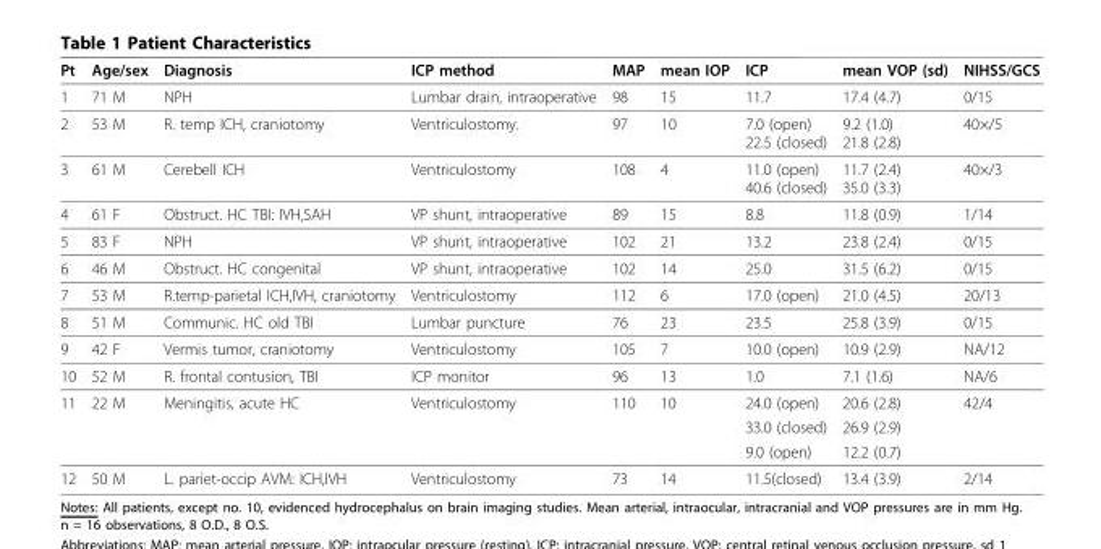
<table><thead><tr><td>Pt</td><td>Age/sex</td><td>Diagnosis</td><td>ICP method</td><td>MAP</td><td>mean IOP</td><td>ICP</td><td>mean VOP (sd)</td><td>NIHSS/GCS</td></tr></thead><tbody><tr><td>1</td><td>71 M</td><td>NPH</td><td>Lumbar drain, intraoperative</td><td>98</td><td>15</td><td>11.7</td><td>17.4 (4.7)</td><td>0/15</td></tr><tr><td>2</td><td>53 M</td><td>R. temp ICH, craniotomy</td><td>Ventriculostomy.</td><td>97</td><td>10</td><td>7.0 (open) 22.5 (closed)</td><td>9.2 (1.0) 21.8 (2.8)</td><td>40×/5</td></tr><tr><td>3</td><td>61 M</td><td>Cerebell ICH</td><td>Ventriculostomy</td><td>108</td><td>4</td><td>11.0 (open) 40.6 (closed)</td><td>11.7 (2.4) 35.0 (3.3)</td><td>40×/3</td></tr><tr><td>4</td><td>61 F</td><td>Obstruct. HC TBI: IVH,SAH</td><td>VP shunt, intraoperative</td><td>89</td><td>15</td><td>8.8</td><td>11.8 (0.9)</td><td>1/14</td></tr><tr><td>5</td><td>83 F</td><td>NPH</td><td>VP shunt, intraoperative</td><td>102</td><td>21</td><td>13.2</td><td>23.8 (2.4)</td><td>0/15</td></tr><tr><td>6</td><td>46 M</td><td>Obstruct. HC congenital</td><td>VP shunt, intraoperative</td><td>102</td><td>14</td><td>25.0</td><td>31.5 (6.2)</td><td>0/15</td></tr><tr><td>7</td><td>53 M</td><td>R.temp-parietal ICH,IVH, craniotomy</td><td>Ventriculostomy</td><td>112</td><td>6</td><td>17.0 (open)</td><td>21.0 (4.5)</td><td>20/13</td></tr><tr><td>8</td><td>51 M</td><td>Communic. HC old TBI</td><td>Lumbar puncture</td><td>76</td><td>23</td><td>23.5</td><td>25.8 (3.9)</td><td>0/15</td></tr><tr><td>9</td><td>42 F</td><td>Vermis tumor, craniotomy</td><td>Ventriculostomy</td><td>105</td><td>7</td><td>10.0 (open)</td><td>10.9 (2.9)</td><td>NA/12</td></tr><tr><td>10</td><td>52 M</td><td>R. frontal contusion, TBI</td><td>ICP monitor</td><td>96</td><td>13</td><td>1.0</td><td>7.1 (1.6)</td><td>NA/6</td></tr><tr><td rowspan="3">11</td><td>22 M</td><td>Meningitis, acute HC</td><td>Ventriculostomy</td><td>110</td><td>10</td><td>24.0 (open)</td><td>20.6 (2.8)</td><td>42/4</td></tr><tr><td></td><td></td><td></td><td></td><td></td><td>33.0 (closed)</td><td>26.9 (2.9)</td><td></td></tr><tr><td></td><td></td><td></td><td></td><td></td><td>9.0 (open)</td><td>12.2 (0.7)</td><td></td></tr><tr><td>12</td><td>50 M</td><td>L. pariet-occip AVM: ICH,IVH</td><td>Ventriculostomy</td><td>73</td><td>14</td><td>11.5(closed)</td><td>13.4 (3.9)</td><td>2/14</td></tr></tbody></table>